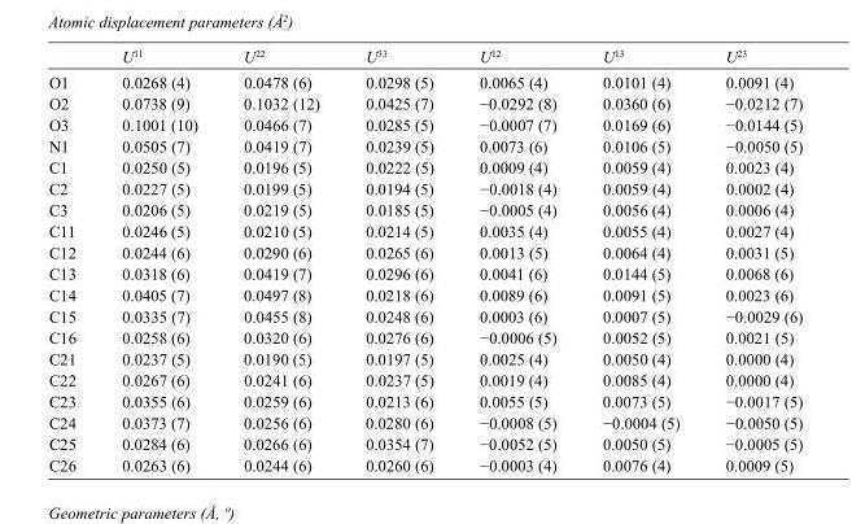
<table><thead><tr><td></td><td>U<sup>11</sup></td><td>U<sup>22</sup></td><td>U<sup>33</sup></td><td>U<sup>12</sup></td><td>U<sup>13</sup></td><td>U<sup>23</sup></td></tr></thead><tbody><tr><td>O1</td><td>0.0268 (4)</td><td>0.0478 (6)</td><td>0.0298 (5)</td><td>0.0065 (4)</td><td>0.0101 (4)</td><td>0.0091 (4)</td></tr><tr><td>O2</td><td>0.0738 (9)</td><td>0.1032 (12)</td><td>0.0425 (7)</td><td>−0.0292 (8)</td><td>0.0360 (6)</td><td>−0.0212 (7)</td></tr><tr><td>O3</td><td>0.1001 (10)</td><td>0.0466 (7)</td><td>0.0285 (5)</td><td>−0.0007 (7)</td><td>0.0169 (6)</td><td>−0.0144 (5)</td></tr><tr><td>N1</td><td>0.0505 (7)</td><td>0.0419 (7)</td><td>0.0239 (5)</td><td>0.0073 (6)</td><td>0.0106 (5)</td><td>−0.0050 (5)</td></tr><tr><td>C1</td><td>0.0250 (5)</td><td>0.0196 (5)</td><td>0.0222 (5)</td><td>0.0009 (4)</td><td>0.0059 (4)</td><td>0.0023 (4)</td></tr><tr><td>C2</td><td>0.0227 (5)</td><td>0.0199 (5)</td><td>0.0194 (5)</td><td>−0.0018 (4)</td><td>0.0059 (4)</td><td>0.0002 (4)</td></tr><tr><td>C3</td><td>0.0206 (5)</td><td>0.0219 (5)</td><td>0.0185 (5)</td><td>−0.0005 (4)</td><td>0.0056 (4)</td><td>0.0006 (4)</td></tr><tr><td>C11</td><td>0.0246 (5)</td><td>0.0210 (5)</td><td>0.0214 (5)</td><td>0.0035 (4)</td><td>0.0055 (4)</td><td>0.0027 (4)</td></tr><tr><td>C12</td><td>0.0244 (6)</td><td>0.0290 (6)</td><td>0.0265 (6)</td><td>0.0013 (5)</td><td>0.0064 (4)</td><td>0.0031 (5)</td></tr><tr><td>C13</td><td>0.0318 (6)</td><td>0.0419 (7)</td><td>0.0296 (6)</td><td>0.0041 (6)</td><td>0.0144 (5)</td><td>0.0068 (6)</td></tr><tr><td>C14</td><td>0.0405 (7)</td><td>0.0497 (8)</td><td>0.0218 (6)</td><td>0.0089 (6)</td><td>0.0091 (5)</td><td>0.0023 (6)</td></tr><tr><td>C15</td><td>0.0335 (7)</td><td>0.0455 (8)</td><td>0.0248 (6)</td><td>0.0003 (6)</td><td>0.0007 (5)</td><td>−0.0029 (6)</td></tr><tr><td>C16</td><td>0.0258 (6)</td><td>0.0320 (6)</td><td>0.0276 (6)</td><td>−0.0006 (5)</td><td>0.0052 (5)</td><td>0.0021 (5)</td></tr><tr><td>C21</td><td>0.0237 (5)</td><td>0.0190 (5)</td><td>0.0197 (5)</td><td>0.0025 (4)</td><td>0.0050 (4)</td><td>0.0000 (4)</td></tr><tr><td>C22</td><td>0.0267 (6)</td><td>0.0241 (6)</td><td>0.0237 (5)</td><td>0.0019 (4)</td><td>0.0085 (4)</td><td>0.0000 (4)</td></tr><tr><td>C23</td><td>0.0355 (6)</td><td>0.0259 (6)</td><td>0.0213 (6)</td><td>0.0055 (5)</td><td>0.0073 (5)</td><td>−0.0017 (5)</td></tr><tr><td>C24</td><td>0.0373 (7)</td><td>0.0256 (6)</td><td>0.0280 (6)</td><td>−0.0008 (5)</td><td>−0.0004 (5)</td><td>−0.0050 (5)</td></tr><tr><td>C25</td><td>0.0284 (6)</td><td>0.0266 (6)</td><td>0.0354 (7)</td><td>−0.0052 (5)</td><td>0.0050 (5)</td><td>−0.0005 (5)</td></tr><tr><td>C26</td><td>0.0263 (6)</td><td>0.0244 (6)</td><td>0.0260 (6)</td><td>−0.0003 (4)</td><td>0.0076 (4)</td><td>0.0009 (5)</td></tr></tbody></table>